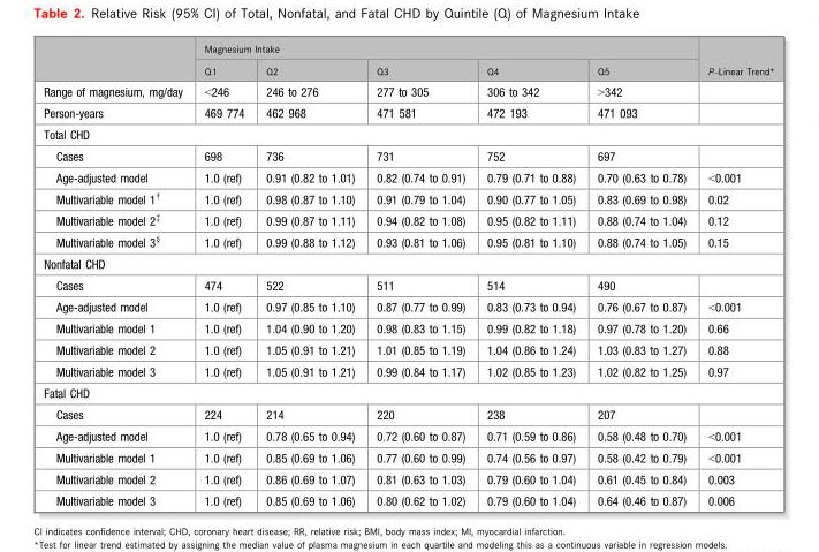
<table><thead><tr><td rowspan="2"></td><td colspan="5">Magnesium Intake</td><td rowspan="2">P–Linear Trend*</td></tr><tr><td>Q1</td><td>Q2</td><td>Q3</td><td>Q4</td><td>Q5</td></tr></thead><tbody><tr><td>Range of magnesium, mg/day</td><td>&lt;246</td><td>246 to 276</td><td>277 to 305</td><td>306 to 342</td><td>&gt;342</td><td></td></tr><tr><td>Person-years</td><td>469 774</td><td>462 968</td><td>471 581</td><td>472 193</td><td>471 093</td><td></td></tr><tr><td colspan="7">Total CHD</td></tr><tr><td>Cases</td><td>698</td><td>736</td><td>731</td><td>752</td><td>697</td><td></td></tr><tr><td>Age-adjusted model</td><td>1.0 (ref)</td><td>0.91 (0.82 to 1.01)</td><td>0.82 (0.74 to 0.91)</td><td>0.79 (0.71 to 0.88)</td><td>0.70 (0.63 to 0.78)</td><td>&lt;0.001</td></tr><tr><td>Multivariable model 1†</td><td>1.0 (ref)</td><td>0.98 (0.87 to 1.10)</td><td>0.91 (0.79 to 1.04)</td><td>0.90 (0.77 to 1.05)</td><td>0.83 (0.69 to 0.98)</td><td>0.02</td></tr><tr><td>Multivariable model 2‡</td><td>1.0 (ref)</td><td>0.99 (0.87 to 1.11)</td><td>0.94 (0.82 to 1.08)</td><td>0.95 (0.82 to 1.11)</td><td>0.88 (0.74 to 1.04)</td><td>0.12</td></tr><tr><td>Multivariable model 3§</td><td>1.0 (ref)</td><td>0.99 (0.88 to 1.12)</td><td>0.93 (0.81 to 1.06)</td><td>0.95 (0.81 to 1.10)</td><td>0.88 (0.74 to 1.05)</td><td>0.15</td></tr><tr><td colspan="7">Nonfatal CHD</td></tr><tr><td>Cases</td><td>474</td><td>522</td><td>511</td><td>514</td><td>490</td><td></td></tr><tr><td>Age-adjusted model</td><td>1.0 (ref)</td><td>0.97 (0.85 to 1.10)</td><td>0.87 (0.77 to 0.99)</td><td>0.83 (0.73 to 0.94)</td><td>0.76 (0.67 to 0.87)</td><td>&lt;0.001</td></tr><tr><td>Multivariable model 1</td><td>1.0 (ref)</td><td>1.04 (0.90 to 1.20)</td><td>0.98 (0.83 to 1.15)</td><td>0.99 (0.82 to 1.18)</td><td>0.97 (0.78 to 1.20)</td><td>0.66</td></tr><tr><td>Multivariable model 2</td><td>1.0 (ref)</td><td>1.05 (0.91 to 1.21)</td><td>1.01 (0.85 to 1.19)</td><td>1.04 (0.86 to 1.24)</td><td>1.03 (0.83 to 1.27)</td><td>0.88</td></tr><tr><td>Multivariable model 3</td><td>1.0 (ref)</td><td>1.05 (0.91 to 1.21)</td><td>0.99 (0.84 to 1.17)</td><td>1.02 (0.85 to 1.23)</td><td>1.02 (0.82 to 1.25)</td><td>0.97</td></tr><tr><td colspan="7">Fatal CHD</td></tr><tr><td>Cases</td><td>224</td><td>214</td><td>220</td><td>238</td><td>207</td><td></td></tr><tr><td>Age-adjusted model</td><td>1.0 (ref)</td><td>0.78 (0.65 to 0.94)</td><td>0.72 (0.60 to 0.87)</td><td>0.71 (0.59 to 0.86)</td><td>0.58 (0.48 to 0.70)</td><td>&lt;0.001</td></tr><tr><td>Multivariable model 1</td><td>1.0 (ref)</td><td>0.85 (0.69 to 1.06)</td><td>0.77 (0.60 to 0.99)</td><td>0.74 (0.56 to 0.97)</td><td>0.58 (0.42 to 0.79)</td><td>&lt;0.001</td></tr><tr><td>Multivariable model 2</td><td>1.0 (ref)</td><td>0.86 (0.69 to 1.07)</td><td>0.81 (0.63 to 1.03)</td><td>0.79 (0.60 to 1.04)</td><td>0.61 (0.45 to 0.84)</td><td>0.003</td></tr><tr><td>Multivariable model 3</td><td>1.0 (ref)</td><td>0.85 (0.69 to 1.06)</td><td>0.80 (0.62 to 1.02)</td><td>0.79 (0.60 to 1.04)</td><td>0.64 (0.46 to 0.87)</td><td>0.006</td></tr></tbody></table>